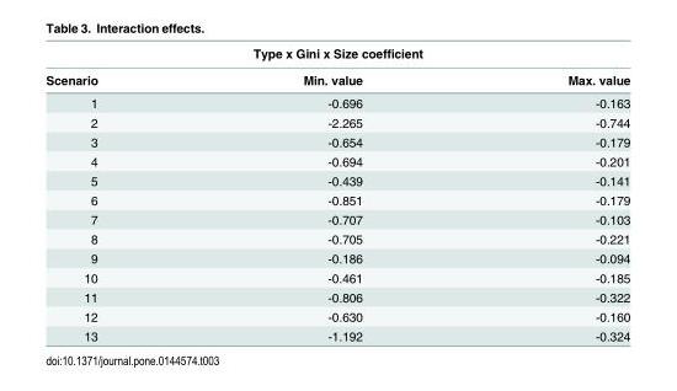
<table><thead><tr><td colspan="3">Type x Gini x Size coefficient</td></tr><tr><td>Scenario</td><td>Min. value</td><td>Max. value</td></tr></thead><tbody><tr><td>1</td><td>-0.696</td><td>-0.163</td></tr><tr><td>2</td><td>-2.265</td><td>-0.744</td></tr><tr><td>3</td><td>-0.654</td><td>-0.179</td></tr><tr><td>4</td><td>-0.694</td><td>-0.201</td></tr><tr><td>5</td><td>-0.439</td><td>-0.141</td></tr><tr><td>6</td><td>-0.851</td><td>-0.179</td></tr><tr><td>7</td><td>-0.707</td><td>-0.103</td></tr><tr><td>8</td><td>-0.705</td><td>-0.221</td></tr><tr><td>9</td><td>-0.186</td><td>-0.094</td></tr><tr><td>10</td><td>-0.461</td><td>-0.185</td></tr><tr><td>11</td><td>-0.806</td><td>-0.322</td></tr><tr><td>12</td><td>-0.630</td><td>-0.160</td></tr><tr><td>13</td><td>-1.192</td><td>-0.324</td></tr></tbody></table>